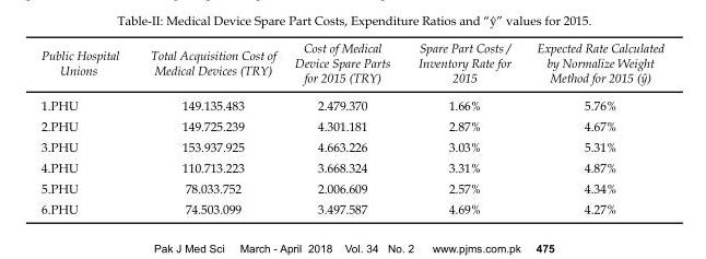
<table><thead><tr><td>Public Hospital Unions</td><td>Total Acquisition Cost of Medical Devices (TRY)</td><td>Cost of Medical Device Spare Parts for 2015 (TRY)</td><td>Spare Part Costs / Inventory Rate for 2015</td><td>Expected Rate Calculated by Normalize Weight Method for 2015 (ŷ)</td></tr></thead><tbody><tr><td>1.PHU</td><td>149.135.483</td><td>2.479.370</td><td>1.66%</td><td>5.76%</td></tr><tr><td>2.PHU</td><td>149.725.239</td><td>4.301.181</td><td>2.87%</td><td>4.67%</td></tr><tr><td>3.PHU</td><td>153.937.925</td><td>4.663.226</td><td>3.03%</td><td>5.31%</td></tr><tr><td>4.PHU</td><td>110.713.223</td><td>3.668.324</td><td>3.31%</td><td>4.87%</td></tr><tr><td>5.PHU</td><td>78.033.752</td><td>2.006.609</td><td>2.57%</td><td>4.34%</td></tr><tr><td>6.PHU</td><td>74.503.099</td><td>3.497.587</td><td>4.69%</td><td>4.27%</td></tr></tbody></table>